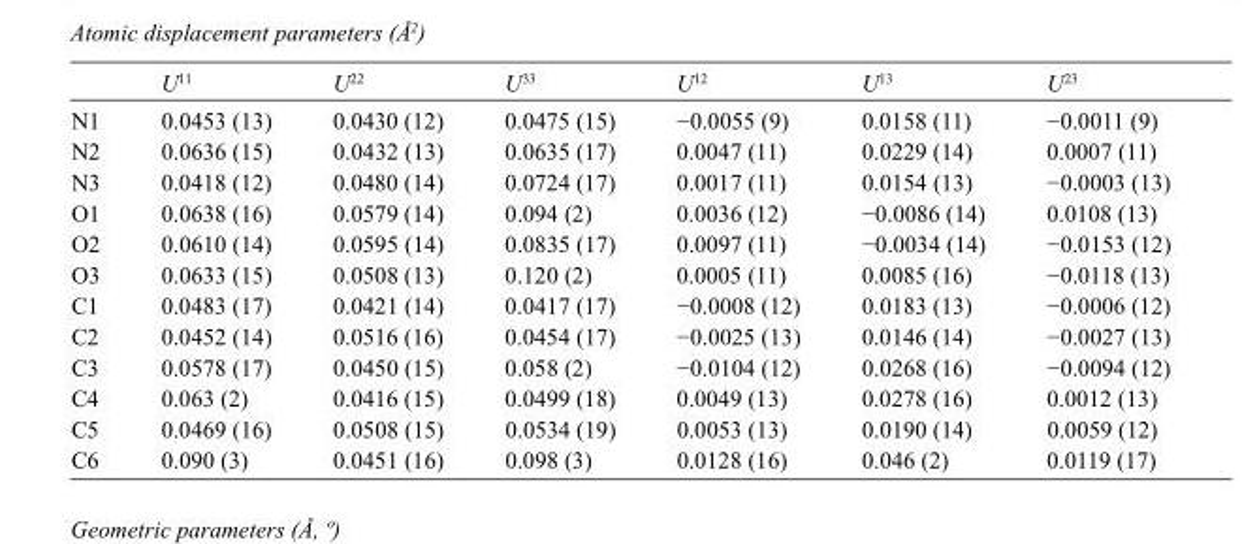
<table><thead><tr><td></td><td>U<sup>11</sup></td><td>U<sup>22</sup></td><td>U<sup>33</sup></td><td>U<sup>12</sup></td><td>U<sup>13</sup></td><td>U<sup>23</sup></td></tr></thead><tbody><tr><td>N1</td><td>0.0453 (13)</td><td>0.0430 (12)</td><td>0.0475 (15)</td><td>−0.0055 (9)</td><td>0.0158 (11)</td><td>−0.0011 (9)</td></tr><tr><td>N2</td><td>0.0636 (15)</td><td>0.0432 (13)</td><td>0.0635 (17)</td><td>0.0047 (11)</td><td>0.0229 (14)</td><td>0.0007 (11)</td></tr><tr><td>N3</td><td>0.0418 (12)</td><td>0.0480 (14)</td><td>0.0724 (17)</td><td>0.0017 (11)</td><td>0.0154 (13)</td><td>−0.0003 (13)</td></tr><tr><td>O1</td><td>0.0638 (16)</td><td>0.0579 (14)</td><td>0.094 (2)</td><td>0.0036 (12)</td><td>−0.0086 (14)</td><td>0.0108 (13)</td></tr><tr><td>O2</td><td>0.0610 (14)</td><td>0.0595 (14)</td><td>0.0835 (17)</td><td>0.0097 (11)</td><td>−0.0034 (14)</td><td>−0.0153 (12)</td></tr><tr><td>O3</td><td>0.0633 (15)</td><td>0.0508 (13)</td><td>0.120 (2)</td><td>0.0005 (11)</td><td>0.0085 (16)</td><td>−0.0118 (13)</td></tr><tr><td>C1</td><td>0.0483 (17)</td><td>0.0421 (14)</td><td>0.0417 (17)</td><td>−0.0008 (12)</td><td>0.0183 (13)</td><td>−0.0006 (12)</td></tr><tr><td>C2</td><td>0.0452 (14)</td><td>0.0516 (16)</td><td>0.0454 (17)</td><td>−0.0025 (13)</td><td>0.0146 (14)</td><td>−0.0027 (13)</td></tr><tr><td>C3</td><td>0.0578 (17)</td><td>0.0450 (15)</td><td>0.058 (2)</td><td>−0.0104 (12)</td><td>0.0268 (16)</td><td>−0.0094 (12)</td></tr><tr><td>C4</td><td>0.063 (2)</td><td>0.0416 (15)</td><td>0.0499 (18)</td><td>0.0049 (13)</td><td>0.0278 (16)</td><td>0.0012 (13)</td></tr><tr><td>C5</td><td>0.0469 (16)</td><td>0.0508 (15)</td><td>0.0534 (19)</td><td>0.0053 (13)</td><td>0.0190 (14)</td><td>0.0059 (12)</td></tr><tr><td>C6</td><td>0.090 (3)</td><td>0.0451 (16)</td><td>0.098 (3)</td><td>0.0128 (16)</td><td>0.046 (2)</td><td>0.0119 (17)</td></tr></tbody></table>